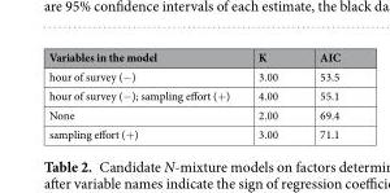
<table><thead><tr><td>Variables in the model</td><td>K</td><td>AIC</td></tr></thead><tbody><tr><td>hour of survey (−)</td><td>3.00</td><td>53.5</td></tr><tr><td>hour of survey (−); sampling effort (+)</td><td>4.00</td><td>55.1</td></tr><tr><td>None</td><td>2.00</td><td>69.4</td></tr><tr><td>sampling effort (+)</td><td>3.00</td><td>71.1</td></tr></tbody></table>